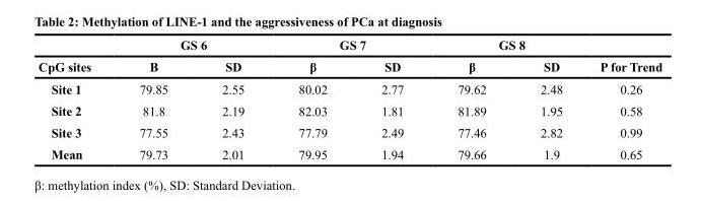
<table><thead><tr><td rowspan="2">CpG sites</td><td colspan="2">GS 6</td><td colspan="2">GS 7</td><td colspan="2">GS 8</td><td rowspan="2">P for Trend</td></tr><tr><td>Β</td><td>SD</td><td>β</td><td>SD</td><td>β</td><td>SD</td></tr></thead><tbody><tr><td>Site 1</td><td>79.85</td><td>2.55</td><td>80.02</td><td>2.77</td><td>79.62</td><td>2.48</td><td>0.26</td></tr><tr><td>Site 2</td><td>81.8</td><td>2.19</td><td>82.03</td><td>1.81</td><td>81.89</td><td>1.95</td><td>0.58</td></tr><tr><td>Site 3</td><td>77.55</td><td>2.43</td><td>77.79</td><td>2.49</td><td>77.46</td><td>2.82</td><td>0.99</td></tr><tr><td>Mean</td><td>79.73</td><td>2.01</td><td>79.95</td><td>1.94</td><td>79.66</td><td>1.9</td><td>0.65</td></tr></tbody></table>